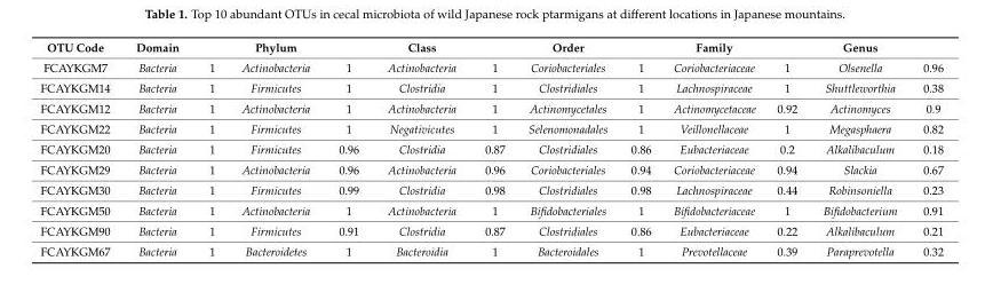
<table><thead><tr><td>OTU Code</td><td>Domain</td><td></td><td>Phylum</td><td></td><td>Class</td><td></td><td>Order</td><td></td><td>Family</td><td></td><td>Genus</td><td></td></tr></thead><tbody><tr><td>FCAYKGM7</td><td>Bacteria</td><td>1</td><td>Actinobacteria</td><td>1</td><td>Actinobacteria</td><td>1</td><td>Coriobacteriales</td><td>1</td><td>Coriobacteriaceae</td><td>1</td><td>Olsenella</td><td>0.96</td></tr><tr><td>FCAYKGM14</td><td>Bacteria</td><td>1</td><td>Firmicutes</td><td>1</td><td>Clostridia</td><td>1</td><td>Clostridiales</td><td>1</td><td>Lachnospiraceae</td><td>1</td><td>Shuttleworthia</td><td>0.38</td></tr><tr><td>FCAYKGM12</td><td>Bacteria</td><td>1</td><td>Actinobacteria</td><td>1</td><td>Actinobacteria</td><td>1</td><td>Actinomycetales</td><td>1</td><td>Actinomycetaceae</td><td>0.92</td><td>Actinomyces</td><td>0.9</td></tr><tr><td>FCAYKGM22</td><td>Bacteria</td><td>1</td><td>Firmicutes</td><td>1</td><td>Negativicutes</td><td>1</td><td>Selenomonadales</td><td>1</td><td>Veillonellaceae</td><td>1</td><td>Megasphaera</td><td>0.82</td></tr><tr><td>FCAYKGM20</td><td>Bacteria</td><td>1</td><td>Firmicutes</td><td>0.96</td><td>Clostridia</td><td>0.87</td><td>Clostridiales</td><td>0.86</td><td>Eubacteriaceae</td><td>0.2</td><td>Alkalibaculum</td><td>0.18</td></tr><tr><td>FCAYKGM29</td><td>Bacteria</td><td>1</td><td>Actinobacteria</td><td>0.96</td><td>Actinobacteria</td><td>0.96</td><td>Coriobacteriales</td><td>0.94</td><td>Coriobacteriaceae</td><td>0.94</td><td>Slackia</td><td>0.67</td></tr><tr><td>FCAYKGM30</td><td>Bacteria</td><td>1</td><td>Firmicutes</td><td>0.99</td><td>Clostridia</td><td>0.98</td><td>Clostridiales</td><td>0.98</td><td>Lachnospiraceae</td><td>0.44</td><td>Robinsoniella</td><td>0.23</td></tr><tr><td>FCAYKGM50</td><td>Bacteria</td><td>1</td><td>Actinobacteria</td><td>1</td><td>Actinobacteria</td><td>1</td><td>Bifidobacteriales</td><td>1</td><td>Bifidobacteriaceae</td><td>1</td><td>Bifidobacterium</td><td>0.91</td></tr><tr><td>FCAYKGM90</td><td>Bacteria</td><td>1</td><td>Firmicutes</td><td>0.91</td><td>Clostridia</td><td>0.87</td><td>Clostridiales</td><td>0.86</td><td>Eubacteriaceae</td><td>0.22</td><td>Alkalibaculum</td><td>0.21</td></tr><tr><td>FCAYKGM67</td><td>Bacteria</td><td>1</td><td>Bacteroidetes</td><td>1</td><td>Bacteroidia</td><td>1</td><td>Bacteroidales</td><td>1</td><td>Prevotellaceae</td><td>0.39</td><td>Paraprevotella</td><td>0.32</td></tr></tbody></table>